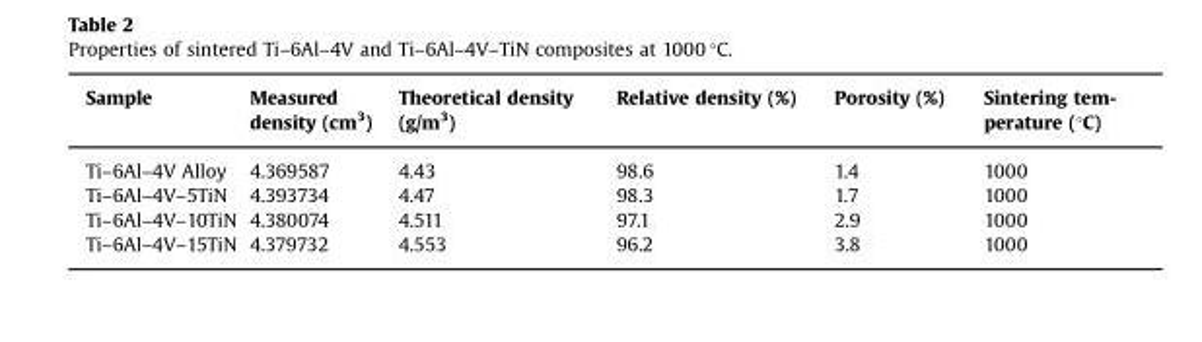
<table><thead><tr><td>Sample</td><td>Measured density (cm<sup>3</sup>)</td><td>Theoretical density (g/m<sup>3</sup>)</td><td>Relative density (%)</td><td>Porosity (%)</td><td>Sintering tem- perature (°C)</td></tr></thead><tbody><tr><td>Ti–6Al–4V Alloy</td><td>4.369587</td><td>4.43</td><td>98.6</td><td>1.4</td><td>1000</td></tr><tr><td>Ti–6Al–4V–5TiN</td><td>4.393734</td><td>4.47</td><td>98.3</td><td>1.7</td><td>1000</td></tr><tr><td>Ti–6Al–4V–10TiN</td><td>4.380074</td><td>4.511</td><td>97.1</td><td>2.9</td><td>1000</td></tr><tr><td>Ti–6Al–4V–15TiN</td><td>4.379732</td><td>4.553</td><td>96.2</td><td>3.8</td><td>1000</td></tr></tbody></table>